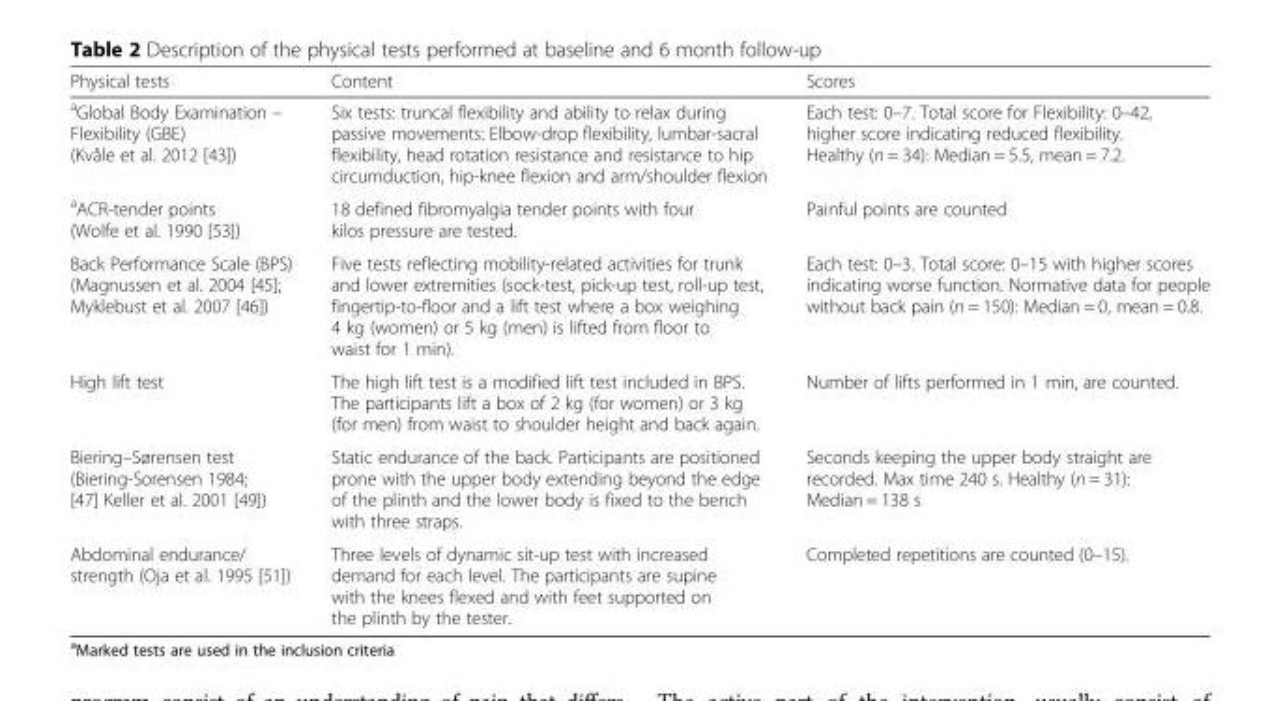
<table><thead><tr><td>Physical tests</td><td>Content</td><td>Scores</td></tr></thead><tbody><tr><td><sup>a</sup>Global Body Examination – Flexibility (GBE) (Kvåle et al. 2012 [43])</td><td>Six tests: truncal flexibility and ability to relax during passive movements: Elbow-drop flexibility, lumbar-sacral flexibility, head rotation resistance and resistance to hip circumduction, hip-knee flexion and arm/shoulder flexion</td><td>Each test: 0–7. Total score for Flexibility: 0–42, higher score indicating reduced flexibility. Healthy (n = 34): Median = 5.5, mean = 7.2.</td></tr><tr><td><sup>a</sup>ACR-tender points (Wolfe et al. 1990 [53])</td><td>18 defined fibromyalgia tender points with four kilos pressure are tested.</td><td>Painful points are counted</td></tr><tr><td>Back Performance Scale (BPS) (Magnussen et al. 2004 [45]; Myklebust et al. 2007 [46])</td><td>Five tests reflecting mobility-related activities for trunk and lower extremities (sock-test, pick-up test, roll-up test, fingertip-to-floor and a lift test where a box weighing 4 kg (women) or 5 kg (men) is lifted from floor to waist for 1 min).</td><td>Each test: 0–3. Total score: 0–15 with higher scores indicating worse function. Normative data for people without back pain (n = 150): Median = 0, mean = 0.8.</td></tr><tr><td>High lift test</td><td>The high lift test is a modified lift test included in BPS. The participants lift a box of 2 kg (for women) or 3 kg (for men) from waist to shoulder height and back again.</td><td>Number of lifts performed in 1 min, are counted.</td></tr><tr><td>Biering–Sørensen test (Biering-Sorensen 1984; [47] Keller et al. 2001 [49])</td><td>Static endurance of the back. Participants are positioned prone with the upper body extending beyond the edge of the plinth and the lower body is fixed to the bench with three straps.</td><td>Seconds keeping the upper body straight are recorded. Max time 240 s. Healthy (n = 31): Median = 138 s</td></tr><tr><td>Abdominal endurance/ strength (Oja et al. 1995 [51])</td><td>Three levels of dynamic sit-up test with increased demand for each level. The participants are supine with the knees flexed and with feet supported on the plinth by the tester.</td><td>Completed repetitions are counted (0–15).</td></tr></tbody></table>